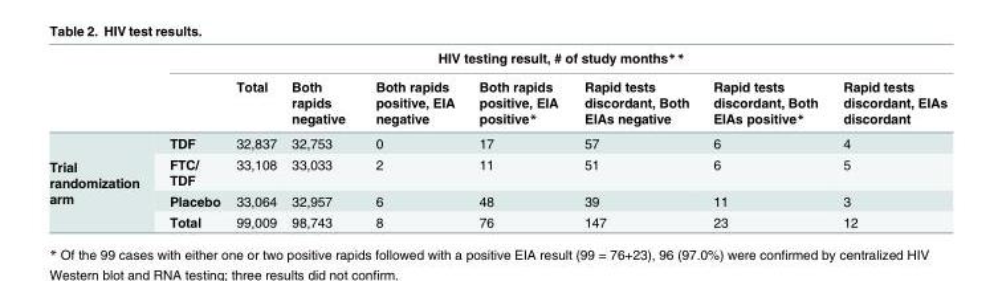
<table><thead><tr><td rowspan="2"></td><td colspan="8">HIV testing result, # of study months**</td></tr><tr><td></td><td>Total</td><td>Both rapids negative</td><td>Both rapids positive, EIA negative</td><td>Both rapids positive, EIA positive*</td><td>Rapid tests discordant, Both EIAs negative</td><td>Rapid tests discordant, Both EIAs positive*</td><td>Rapid tests discordant, EIAs discordant</td></tr></thead><tbody><tr><td rowspan="4">Trial randomization arm</td><td>TDF</td><td>32,837</td><td>32,753</td><td>0</td><td>17</td><td>57</td><td>6</td><td>4</td></tr><tr><td>FTC/ TDF</td><td>33,108</td><td>33,033</td><td>2</td><td>11</td><td>51</td><td>6</td><td>5</td></tr><tr><td>Placebo</td><td>33,064</td><td>32,957</td><td>6</td><td>48</td><td>39</td><td>11</td><td>3</td></tr><tr><td>Total</td><td>99,009</td><td>98,743</td><td>8</td><td>76</td><td>147</td><td>23</td><td>12</td></tr></tbody></table>